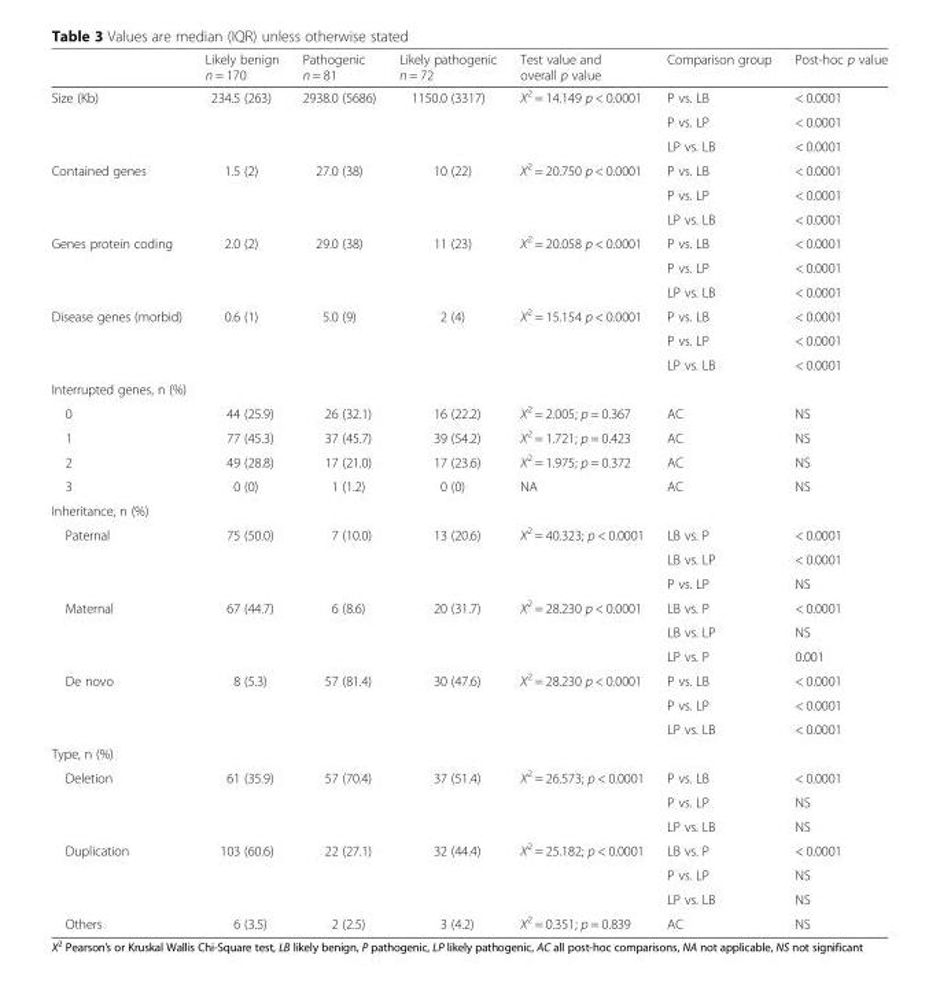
<table><thead><tr><td></td><td>Likely benign n = 170</td><td>Pathogenic n = 81</td><td>Likely pathogenic n = 72</td><td>Test value and overall p value</td><td>Comparison group</td><td>Post-hoc p value</td></tr></thead><tbody><tr><td rowspan="3">Size (Kb)</td><td rowspan="3">234.5 (263)</td><td rowspan="3">2938.0 (5686)</td><td rowspan="3">1150.0 (3317)</td><td rowspan="3">X<sup>2</sup> = 14.149 p &lt; 0.0001</td><td>P vs. LB</td><td>&lt; 0.0001</td></tr><tr><td>P vs. LP</td><td>&lt; 0.0001</td></tr><tr><td>LP vs. LB</td><td>&lt; 0.0001</td></tr><tr><td rowspan="3">Contained genes</td><td rowspan="3">1.5 (2)</td><td rowspan="3">27.0 (38)</td><td rowspan="3">10 (22)</td><td rowspan="3">X<sup>2</sup> = 20.750 p &lt; 0.0001</td><td>P vs. LB</td><td>&lt; 0.0001</td></tr><tr><td>P vs. LP</td><td>&lt; 0.0001</td></tr><tr><td>LP vs. LB</td><td>&lt; 0.0001</td></tr><tr><td rowspan="3">Genes protein coding</td><td rowspan="3">2.0 (2)</td><td rowspan="3">29.0 (38)</td><td rowspan="3">11 (23)</td><td rowspan="3">X<sup>2</sup> = 20.058 p &lt; 0.0001</td><td>P vs. LB</td><td>&lt; 0.0001</td></tr><tr><td>P vs. LP</td><td>&lt; 0.0001</td></tr><tr><td>LP vs. LB</td><td>&lt; 0.0001</td></tr><tr><td rowspan="3">Disease genes (morbid)</td><td rowspan="3">0.6 (1)</td><td rowspan="3">5.0 (9)</td><td rowspan="3">2 (4)</td><td rowspan="3">X<sup>2</sup> = 15.154 p &lt; 0.0001</td><td>P vs. LB</td><td>&lt; 0.0001</td></tr><tr><td>P vs. LP</td><td>&lt; 0.0001</td></tr><tr><td>LP vs. LB</td><td>&lt; 0.0001</td></tr><tr><td colspan="7">Interrupted genes, n (%)</td></tr><tr><td>0</td><td>44 (25.9)</td><td>26 (32.1)</td><td>16 (22.2)</td><td>X<sup>2</sup> = 2.005; p = 0.367</td><td>AC</td><td>NS</td></tr><tr><td>1</td><td>77 (45.3)</td><td>37 (45.7)</td><td>39 (54.2)</td><td>X<sup>2</sup> = 1.721; p = 0.423</td><td>AC</td><td>NS</td></tr><tr><td>2</td><td>49 (28.8)</td><td>17 (21.0)</td><td>17 (23.6)</td><td>X<sup>2</sup> = 1.975; p = 0.372</td><td>AC</td><td>NS</td></tr><tr><td>3</td><td>0 (0)</td><td>1 (1.2)</td><td>0 (0)</td><td>NA</td><td>AC</td><td>NS</td></tr><tr><td colspan="7">Inheritance, n (%)</td></tr><tr><td rowspan="3">Paternal</td><td rowspan="3">75 (50.0)</td><td rowspan="3">7 (10.0)</td><td rowspan="3">13 (20.6)</td><td rowspan="3">X<sup>2</sup> = 40.323; p &lt; 0.0001</td><td>LB vs. P</td><td>&lt; 0.0001</td></tr><tr><td>LB vs. LP</td><td>&lt; 0.0001</td></tr><tr><td>P vs. LP</td><td>NS</td></tr><tr><td rowspan="3">Maternal</td><td rowspan="3">67 (44.7)</td><td rowspan="3">6 (8.6)</td><td rowspan="3">20 (31.7)</td><td rowspan="3">X<sup>2</sup> = 28.230 p &lt; 0.0001</td><td>LB vs. P</td><td>&lt; 0.0001</td></tr><tr><td>LB vs. LP</td><td>NS</td></tr><tr><td>LP vs. P</td><td>0.001</td></tr><tr><td rowspan="3">De novo</td><td rowspan="3">8 (5.3)</td><td rowspan="3">57 (81.4)</td><td rowspan="3">30 (47.6)</td><td rowspan="3">X<sup>2</sup> = 28.230 p &lt; 0.0001</td><td>P vs. LB</td><td>&lt; 0.0001</td></tr><tr><td>P vs. LP</td><td>&lt; 0.0001</td></tr><tr><td>LP vs. LB</td><td>&lt; 0.0001</td></tr><tr><td colspan="7">Type, n (%)</td></tr><tr><td rowspan="3">Deletion</td><td rowspan="3">61 (35.9)</td><td rowspan="3">57 (70.4)</td><td rowspan="3">37 (51.4)</td><td rowspan="3">X<sup>2</sup> = 26.573; p &lt; 0.0001</td><td>P vs. LB</td><td>&lt; 0.0001</td></tr><tr><td>P vs. LP</td><td>NS</td></tr><tr><td>LP vs. LB</td><td>NS</td></tr><tr><td rowspan="3">Duplication</td><td rowspan="3">103 (60.6)</td><td rowspan="3">22 (27.1)</td><td rowspan="3">32 (44.4)</td><td rowspan="3">X<sup>2</sup> = 25.182; p &lt; 0.0001</td><td>LB vs. P</td><td>&lt; 0.0001</td></tr><tr><td>P vs. LP</td><td>NS</td></tr><tr><td>LP vs. LB</td><td>NS</td></tr><tr><td>Others</td><td>6 (3.5)</td><td>2 (2.5)</td><td>3 (4.2)</td><td>X<sup>2</sup> = 0.351; p = 0.839</td><td>AC</td><td>NS</td></tr></tbody></table>